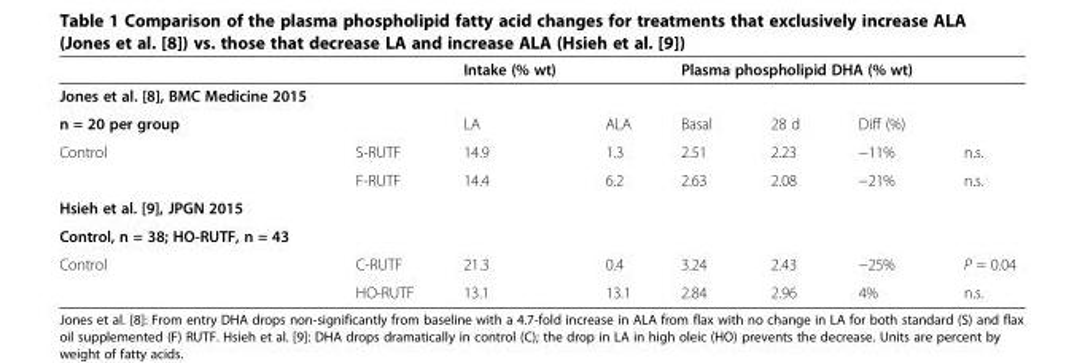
<table><thead><tr><td rowspan="3">Jones et al. [8], BMC Medicine 2015 n = 20 per group</td><td></td><td>Intake (% wt)</td><td></td><td colspan="4">Plasma phospholipid DHA (% wt)</td></tr><tr><td colspan="7"></td></tr><tr><td></td><td>LA</td><td>ALA</td><td>Basal</td><td>28 d</td><td>Diff (%)</td><td></td></tr></thead><tbody><tr><td rowspan="2">Control</td><td>S-RUTF</td><td>14.9</td><td>1.3</td><td>2.51</td><td>2.23</td><td>−11%</td><td>n.s.</td></tr><tr><td>F-RUTF</td><td>14.4</td><td>6.2</td><td>2.63</td><td>2.08</td><td>−21%</td><td>n.s.</td></tr><tr><td colspan="8">Hsieh et al. [9], JPGN 2015</td></tr><tr><td colspan="8">Control, n = 38; HO-RUTF, n = 43</td></tr><tr><td rowspan="2">Control</td><td>C-RUTF</td><td>21.3</td><td>0.4</td><td>3.24</td><td>2.43</td><td>−25%</td><td>P = 0.04</td></tr><tr><td>HO-RUTF</td><td>13.1</td><td>13.1</td><td>2.84</td><td>2.96</td><td>4%</td><td>n.s.</td></tr></tbody></table>